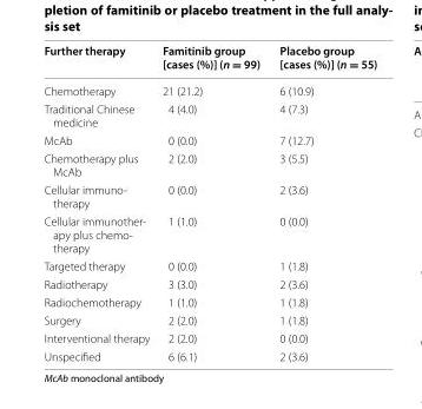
<table><thead><tr><td>Further therapy</td><td>Famitinib group [cases (%)] (n = 99)</td><td>Placebo group [cases (%)] (n = 55)</td></tr></thead><tbody><tr><td>Chemotherapy</td><td>21 (21.2)</td><td>6 (10.9)</td></tr><tr><td>Traditional Chinese medicine</td><td>4 (4.0)</td><td>4 (7.3)</td></tr><tr><td>McAb</td><td>0 (0.0)</td><td>7 (12.7)</td></tr><tr><td>Chemotherapy plus McAb</td><td>2 (2.0)</td><td>3 (5.5)</td></tr><tr><td>Cellular immuno‑ therapy</td><td>0 (0.0)</td><td>2 (3.6)</td></tr><tr><td>Cellular immunother‑ apy plus chemo‑ therapy</td><td>1 (1.0)</td><td>0 (0.0)</td></tr><tr><td>Targeted therapy</td><td>0 (0.0)</td><td>1 (1.8)</td></tr><tr><td>Radiotherapy</td><td>3 (3.0)</td><td>2 (3.6)</td></tr><tr><td>Radiochemotherapy</td><td>1 (1.0)</td><td>1 (1.8)</td></tr><tr><td>Surgery</td><td>2 (2.0)</td><td>1 (1.8)</td></tr><tr><td>Interventional therapy</td><td>2 (2.0)</td><td>0 (0.0)</td></tr><tr><td>Unspecified</td><td>6 (6.1)</td><td>2 (3.6)</td></tr></tbody></table>